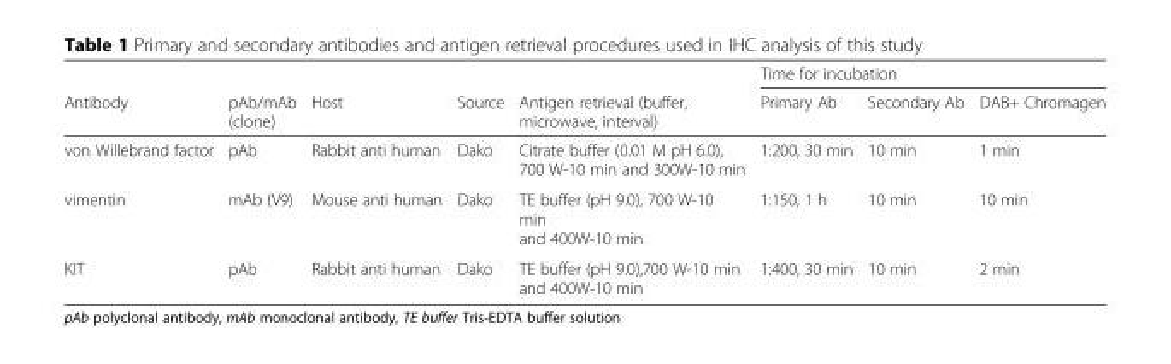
<table><thead><tr><td rowspan="2">Antibody</td><td rowspan="2">pAb/mAb (clone)</td><td rowspan="2">Host</td><td rowspan="2">Source</td><td rowspan="2">Antigen retrieval (buffer, microwave, interval)</td><td colspan="3">Time for incubation</td></tr><tr><td>Primary Ab</td><td>Secondary Ab</td><td>DAB+ Chromagen</td></tr></thead><tbody><tr><td>von Willebrand factor</td><td>pAb</td><td>Rabbit anti human</td><td>Dako</td><td>Citrate buffer (0.01 M pH 6.0), 700 W-10 min and 300W-10 min</td><td>1:200, 30 min</td><td>10 min</td><td>1 min</td></tr><tr><td>vimentin</td><td>mAb (V9)</td><td>Mouse anti human</td><td>Dako</td><td>TE buffer (pH 9.0), 700 W-10 min and 400W-10 min</td><td>1:150, 1 h</td><td>10 min</td><td>10 min</td></tr><tr><td>KIT</td><td>pAb</td><td>Rabbit anti human</td><td>Dako</td><td>TE buffer (pH 9.0),700 W-10 min and 400W-10 min</td><td>1:400, 30 min</td><td>10 min</td><td>2 min</td></tr></tbody></table>